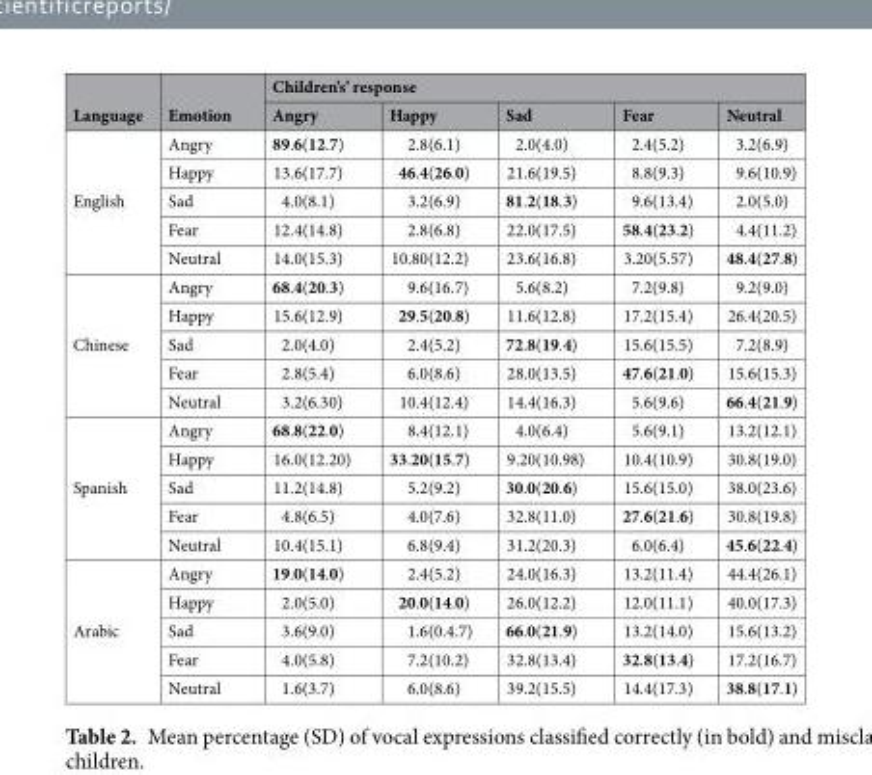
<table><thead><tr><td rowspan="2">Language</td><td rowspan="2">Emotion</td><td colspan="5">Children’s’ response</td></tr><tr><td>Angry</td><td>Happy</td><td>Sad</td><td>Fear</td><td>Neutral</td></tr></thead><tbody><tr><td rowspan="5">English</td><td>Angry</td><td>89.6(12.7)</td><td>2.8(6.1)</td><td>2.0(4.0)</td><td>2.4(5.2)</td><td>3.2(6.9)</td></tr><tr><td>Happy</td><td>13.6(17.7)</td><td>46.4(26.0)</td><td>21.6(19.5)</td><td>8.8(9.3)</td><td>9.6(10.9)</td></tr><tr><td>Sad</td><td>4.0(8.1)</td><td>3.2(6.9)</td><td>81.2(18.3)</td><td>9.6(13.4)</td><td>2.0(5.0)</td></tr><tr><td>Fear</td><td>12.4(14.8)</td><td>2.8(6.8)</td><td>22.0(17.5)</td><td>58.4(23.2)</td><td>4.4(11.2)</td></tr><tr><td>Neutral</td><td>14.0(15.3)</td><td>10.80(12.2)</td><td>23.6(16.8)</td><td>3.20(5.57)</td><td>48.4(27.8)</td></tr><tr><td rowspan="5">Chinese</td><td>Angry</td><td>68.4(20.3)</td><td>9.6(16.7)</td><td>5.6(8.2)</td><td>7.2(9.8)</td><td>9.2(9.0)</td></tr><tr><td>Happy</td><td>15.6(12.9)</td><td>29.5(20.8)</td><td>11.6(12.8)</td><td>17.2(15.4)</td><td>26.4(20.5)</td></tr><tr><td>Sad</td><td>2.0(4.0)</td><td>2.4(5.2)</td><td>72.8(19.4)</td><td>15.6(15.5)</td><td>7.2(8.9)</td></tr><tr><td>Fear</td><td>2.8(5.4)</td><td>6.0(8.6)</td><td>28.0(13.5)</td><td>47.6(21.0)</td><td>15.6(15.3)</td></tr><tr><td>Neutral</td><td>3.2(6.30)</td><td>10.4(12.4)</td><td>14.4(16.3)</td><td>5.6(9.6)</td><td>66.4(21.9)</td></tr><tr><td rowspan="5">Spanish</td><td>Angry</td><td>68.8(22.0)</td><td>8.4(12.1)</td><td>4.0(6.4)</td><td>5.6(9.1)</td><td>13.2(12.1)</td></tr><tr><td>Happy</td><td>16.0(12.20)</td><td>33.20(15.7)</td><td>9.20(10.98)</td><td>10.4(10.9)</td><td>30.8(19.0)</td></tr><tr><td>Sad</td><td>11.2(14.8)</td><td>5.2(9.2)</td><td>30.0(20.6)</td><td>15.6(15.0)</td><td>38.0(23.6)</td></tr><tr><td>Fear</td><td>4.8(6.5)</td><td>4.0(7.6)</td><td>32.8(11.0)</td><td>27.6(21.6)</td><td>30.8(19.8)</td></tr><tr><td>Neutral</td><td>10.4(15.1)</td><td>6.8(9.4)</td><td>31.2(20.3)</td><td>6.0(6.4)</td><td>45.6(22.4)</td></tr><tr><td rowspan="5">Arabic</td><td>Angry</td><td>19.0(14.0)</td><td>2.4(5.2)</td><td>24.0(16.3)</td><td>13.2(11.4)</td><td>44.4(26.1)</td></tr><tr><td>Happy</td><td>2.0(5.0)</td><td>20.0(14.0)</td><td>26.0(12.2)</td><td>12.0(11.1)</td><td>40.0(17.3)</td></tr><tr><td>Sad</td><td>3.6(9.0)</td><td>1.6(0.4.7)</td><td>66.0(21.9)</td><td>13.2(14.0)</td><td>15.6(13.2)</td></tr><tr><td>Fear</td><td>4.0(5.8)</td><td>7.2(10.2)</td><td>32.8(13.4)</td><td>32.8(13.4)</td><td>17.2(16.7)</td></tr><tr><td>Neutral</td><td>1.6(3.7)</td><td>6.0(8.6)</td><td>39.2(15.5)</td><td>14.4(17.3)</td><td>38.8(17.1)</td></tr></tbody></table>